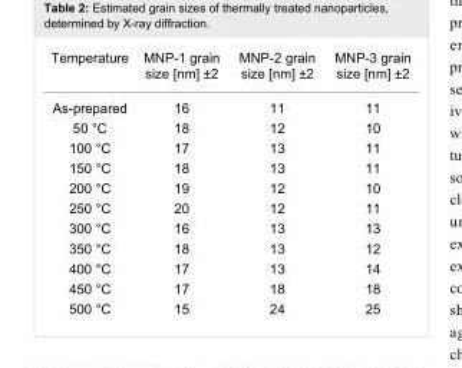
<table><tbody><tr><td>Temperature</td><td>MNP-1 grain size [nm] ±2</td><td>MNP-2 grain size [nm] ±2</td><td>MNP-3 grain size [nm] ±2</td></tr><tr><td>As-prepared</td><td>16</td><td>11</td><td>11</td></tr><tr><td>50 °C</td><td>18</td><td>12</td><td>10</td></tr><tr><td>100 °C</td><td>17</td><td>13</td><td>11</td></tr><tr><td>150 °C</td><td>18</td><td>13</td><td>11</td></tr><tr><td>200 °C</td><td>19</td><td>12</td><td>10</td></tr><tr><td>250 °C</td><td>20</td><td>12</td><td>11</td></tr><tr><td>300 °C</td><td>16</td><td>13</td><td>13</td></tr><tr><td>350 °C</td><td>18</td><td>13</td><td>12</td></tr><tr><td>400 °C</td><td>17</td><td>13</td><td>14</td></tr><tr><td>450 °C</td><td>17</td><td>18</td><td>18</td></tr><tr><td>500 °C</td><td>15</td><td>24</td><td>25</td></tr></tbody></table>